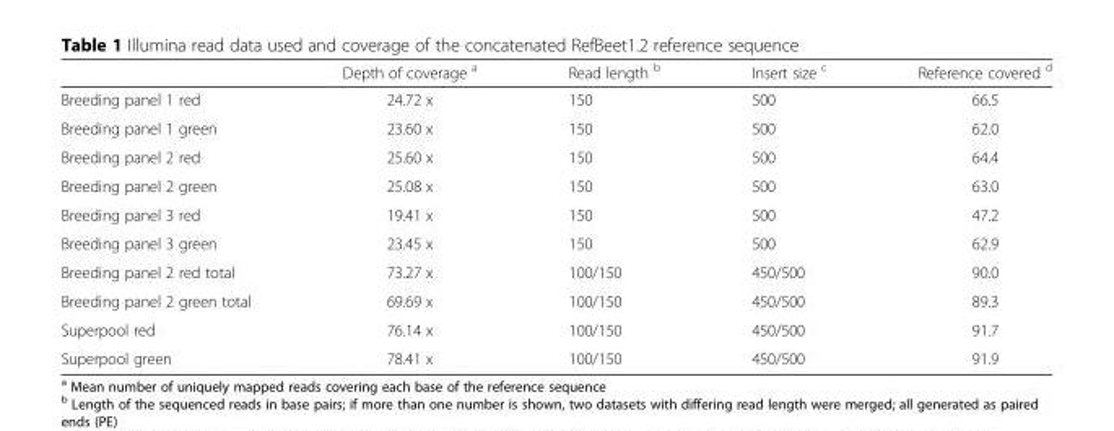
<table><thead><tr><td></td><td>Depth of coverage <sup>a</sup></td><td>Read length <sup>b</sup></td><td>Insert size <sup>c</sup></td><td>Reference covered <sup>d</sup></td></tr></thead><tbody><tr><td>Breeding panel 1 red</td><td>24.72 x</td><td>150</td><td>500</td><td>66.5</td></tr><tr><td>Breeding panel 1 green</td><td>23.60 x</td><td>150</td><td>500</td><td>62.0</td></tr><tr><td>Breeding panel 2 red</td><td>25.60 x</td><td>150</td><td>500</td><td>64.4</td></tr><tr><td>Breeding panel 2 green</td><td>25.08 x</td><td>150</td><td>500</td><td>63.0</td></tr><tr><td>Breeding panel 3 red</td><td>19.41 x</td><td>150</td><td>500</td><td>47.2</td></tr><tr><td>Breeding panel 3 green</td><td>23.45 x</td><td>150</td><td>500</td><td>62.9</td></tr><tr><td>Breeding panel 2 red total</td><td>73.27 x</td><td>100/150</td><td>450/500</td><td>90.0</td></tr><tr><td>Breeding panel 2 green total</td><td>69.69 x</td><td>100/150</td><td>450/500</td><td>89.3</td></tr><tr><td>Superpool red</td><td>76.14 x</td><td>100/150</td><td>450/500</td><td>91.7</td></tr><tr><td>Superpool green</td><td>78.41 x</td><td>100/150</td><td>450/500</td><td>91.9</td></tr></tbody></table>